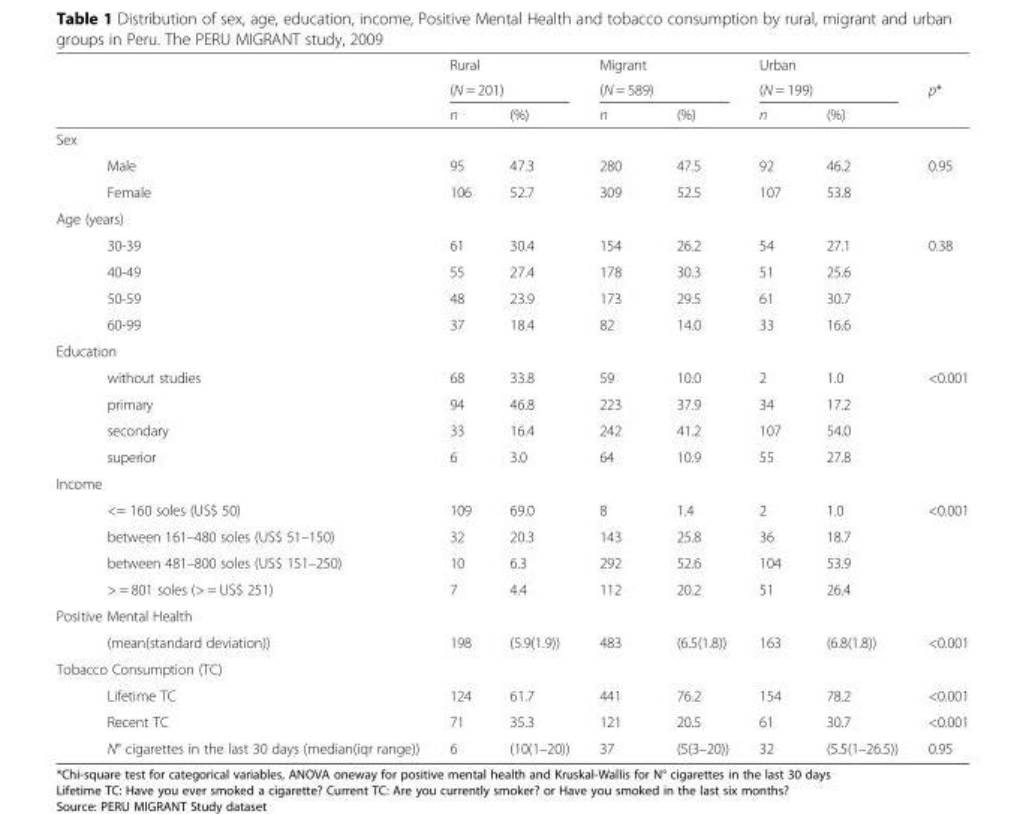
<table><thead><tr><td rowspan="3"></td><td rowspan="3"></td><td>Rural</td><td></td><td>Migrant</td><td></td><td>Urban</td><td></td><td rowspan="3">p*</td></tr><tr><td colspan="2">(N = 201)</td><td colspan="2">(N = 589)</td><td colspan="2">(N = 199)</td></tr><tr><td>n</td><td>(%)</td><td>n</td><td>(%)</td><td>n</td><td>(%)</td></tr></thead><tbody><tr><td colspan="9">Sex</td></tr><tr><td></td><td>Male</td><td>95</td><td>47.3</td><td>280</td><td>47.5</td><td>92</td><td>46.2</td><td>0.95</td></tr><tr><td></td><td>Female</td><td>106</td><td>52.7</td><td>309</td><td>52.5</td><td>107</td><td>53.8</td><td></td></tr><tr><td colspan="9">Age (years)</td></tr><tr><td></td><td>30-39</td><td>61</td><td>30.4</td><td>154</td><td>26.2</td><td>54</td><td>27.1</td><td>0.38</td></tr><tr><td></td><td>40-49</td><td>55</td><td>27.4</td><td>178</td><td>30.3</td><td>51</td><td>25.6</td><td></td></tr><tr><td></td><td>50-59</td><td>48</td><td>23.9</td><td>173</td><td>29.5</td><td>61</td><td>30.7</td><td></td></tr><tr><td></td><td>60-99</td><td>37</td><td>18.4</td><td>82</td><td>14.0</td><td>33</td><td>16.6</td><td></td></tr><tr><td colspan="9">Education</td></tr><tr><td></td><td>without studies</td><td>68</td><td>33.8</td><td>59</td><td>10.0</td><td>2</td><td>1.0</td><td>&lt;0.001</td></tr><tr><td></td><td>primary</td><td>94</td><td>46.8</td><td>223</td><td>37.9</td><td>34</td><td>17.2</td><td></td></tr><tr><td></td><td>secondary</td><td>33</td><td>16.4</td><td>242</td><td>41.2</td><td>107</td><td>54.0</td><td></td></tr><tr><td></td><td>superior</td><td>6</td><td>3.0</td><td>64</td><td>10.9</td><td>55</td><td>27.8</td><td></td></tr><tr><td colspan="9">Income</td></tr><tr><td></td><td>&lt;= 160 soles (US$ 50)</td><td>109</td><td>69.0</td><td>8</td><td>1.4</td><td>2</td><td>1.0</td><td>&lt;0.001</td></tr><tr><td></td><td>between 161–480 soles (US$ 51–150)</td><td>32</td><td>20.3</td><td>143</td><td>25.8</td><td>36</td><td>18.7</td><td></td></tr><tr><td></td><td>between 481–800 soles (US$ 151–250)</td><td>10</td><td>6.3</td><td>292</td><td>52.6</td><td>104</td><td>53.9</td><td></td></tr><tr><td></td><td>&gt; = 801 soles (&gt; = US$ 251)</td><td>7</td><td>4.4</td><td>112</td><td>20.2</td><td>51</td><td>26.4</td><td></td></tr><tr><td colspan="9">Positive Mental Health</td></tr><tr><td></td><td>(mean(standard deviation))</td><td>198</td><td>(5.9(1.9))</td><td>483</td><td>(6.5(1.8))</td><td>163</td><td>(6.8(1.8))</td><td>&lt;0.001</td></tr><tr><td colspan="9">Tobacco Consumption (TC)</td></tr><tr><td></td><td>Lifetime TC</td><td>124</td><td>61.7</td><td>441</td><td>76.2</td><td>154</td><td>78.2</td><td>&lt;0.001</td></tr><tr><td></td><td>Recent TC</td><td>71</td><td>35.3</td><td>121</td><td>20.5</td><td>61</td><td>30.7</td><td>&lt;0.001</td></tr><tr><td></td><td>N° cigarettes in the last 30 days (median(iqr range))</td><td>6</td><td>(10(1–20))</td><td>37</td><td>(5(3–20))</td><td>32</td><td>(5.5(1–26.5))</td><td>0.95</td></tr></tbody></table>